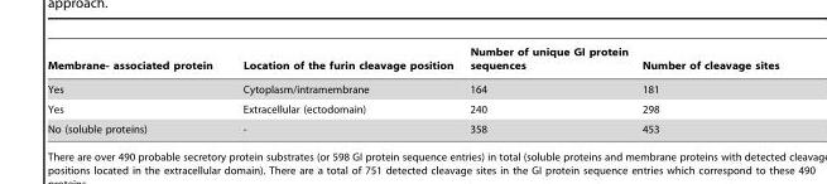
<table><thead><tr><td>Membrane- associated protein</td><td>Location of the furin cleavage position</td><td>Number of unique GI protein sequences</td><td>Number of cleavage sites</td></tr></thead><tbody><tr><td>Yes</td><td>Cytoplasm/intramembrane</td><td>164</td><td>181</td></tr><tr><td>Yes</td><td>Extracellular (ectodomain)</td><td>240</td><td>298</td></tr><tr><td>No (soluble proteins)</td><td>-</td><td>358</td><td>453</td></tr></tbody></table>